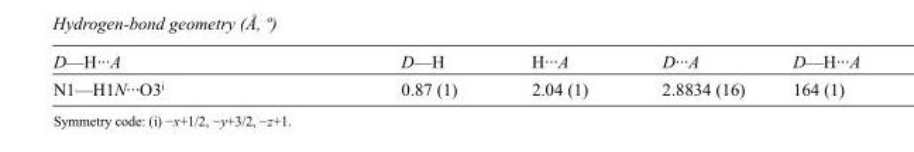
<table><tbody><tr><td>D—H···A</td><td>D—H</td><td>H···A</td><td>D···A</td><td>D—H···A</td></tr><tr><td>N1—H1N···O3<sup>i</sup></td><td>0.87 (1)</td><td>2.04 (1)</td><td>2.8834 (16)</td><td>164 (1)</td></tr></tbody></table>